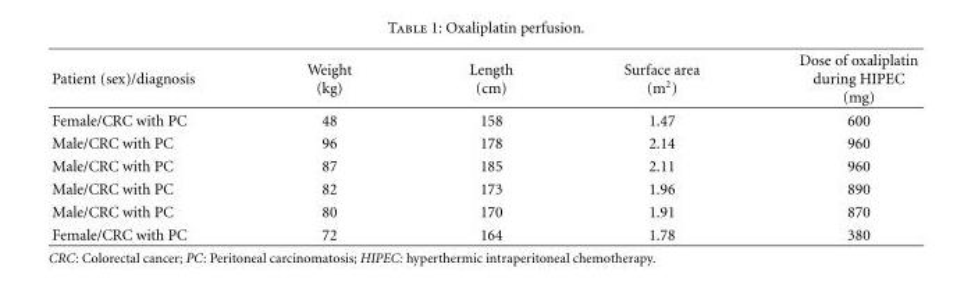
<table><thead><tr><td>Patient (sex)/diagnosis</td><td>Weight (kg)</td><td>Length (cm)</td><td>Surface area (m<sup>2</sup>)</td><td>Dose of oxaliplatin during HIPEC (mg)</td></tr></thead><tbody><tr><td>Female/CRC with PC</td><td>48</td><td>158</td><td>1.47</td><td>600</td></tr><tr><td>Male/CRC with PC</td><td>96</td><td>178</td><td>2.14</td><td>960</td></tr><tr><td>Male/CRC with PC</td><td>87</td><td>185</td><td>2.11</td><td>960</td></tr><tr><td>Male/CRC with PC</td><td>82</td><td>173</td><td>1.96</td><td>890</td></tr><tr><td>Male/CRC with PC</td><td>80</td><td>170</td><td>1.91</td><td>870</td></tr><tr><td>Female/CRC with PC</td><td>72</td><td>164</td><td>1.78</td><td>380</td></tr></tbody></table>